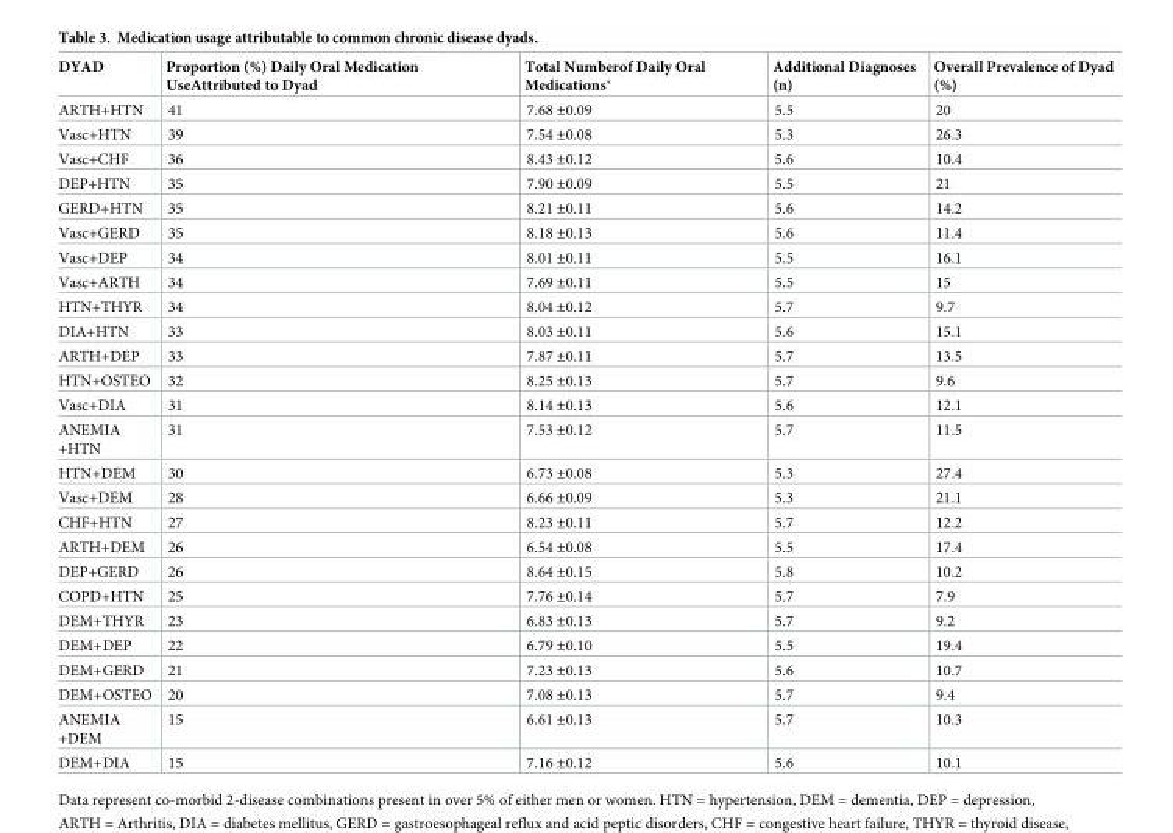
<table><thead><tr><td>DYAD</td><td>Proportion (%) Daily Oral Medication UseAttributed to Dyad</td><td>Total Numberof Daily Oral Medications*</td><td>Additional Diagnoses (n)</td><td>Overall Prevalence of Dyad (%)</td></tr></thead><tbody><tr><td>ARTH+HTN</td><td>41</td><td>7.68 ±0.09</td><td>5.5</td><td>20</td></tr><tr><td>Vasc+HTN</td><td>39</td><td>7.54 ±0.08</td><td>5.3</td><td>26.3</td></tr><tr><td>Vasc+CHF</td><td>36</td><td>8.43 ±0.12</td><td>5.6</td><td>10.4</td></tr><tr><td>DEP+HTN</td><td>35</td><td>7.90 ±0.09</td><td>5.5</td><td>21</td></tr><tr><td>GERD+HTN</td><td>35</td><td>8.21 ±0.11</td><td>5.6</td><td>14.2</td></tr><tr><td>Vasc+GERD</td><td>35</td><td>8.18 ±0.13</td><td>5.6</td><td>11.4</td></tr><tr><td>Vasc+DEP</td><td>34</td><td>8.01 ±0.11</td><td>5.5</td><td>16.1</td></tr><tr><td>Vasc+ARTH</td><td>34</td><td>7.69 ±0.11</td><td>5.5</td><td>15</td></tr><tr><td>HTN+THYR</td><td>34</td><td>8.04 ±0.12</td><td>5.7</td><td>9.7</td></tr><tr><td>DIA+HTN</td><td>33</td><td>8.03 ±0.11</td><td>5.6</td><td>15.1</td></tr><tr><td>ARTH+DEP</td><td>33</td><td>7.87 ±0.11</td><td>5.7</td><td>13.5</td></tr><tr><td>HTN+OSTEO</td><td>32</td><td>8.25 ±0.13</td><td>5.7</td><td>9.6</td></tr><tr><td>Vasc+DIA</td><td>31</td><td>8.14 ±0.13</td><td>5.6</td><td>12.1</td></tr><tr><td>ANEMIA +HTN</td><td>31</td><td>7.53 ±0.12</td><td>5.7</td><td>11.5</td></tr><tr><td>HTN+DEM</td><td>30</td><td>6.73 ±0.08</td><td>5.3</td><td>27.4</td></tr><tr><td>Vasc+DEM</td><td>28</td><td>6.66 ±0.09</td><td>5.3</td><td>21.1</td></tr><tr><td>CHF+HTN</td><td>27</td><td>8.23 ±0.11</td><td>5.7</td><td>12.2</td></tr><tr><td>ARTH+DEM</td><td>26</td><td>6.54 ±0.08</td><td>5.5</td><td>17.4</td></tr><tr><td>DEP+GERD</td><td>26</td><td>8.64 ±0.15</td><td>5.8</td><td>10.2</td></tr><tr><td>COPD+HTN</td><td>25</td><td>7.76 ±0.14</td><td>5.7</td><td>7.9</td></tr><tr><td>DEM+THYR</td><td>23</td><td>6.83 ±0.13</td><td>5.7</td><td>9.2</td></tr><tr><td>DEM+DEP</td><td>22</td><td>6.79 ±0.10</td><td>5.5</td><td>19.4</td></tr><tr><td>DEM+GERD</td><td>21</td><td>7.23 ±0.13</td><td>5.6</td><td>10.7</td></tr><tr><td>DEM+OSTEO</td><td>20</td><td>7.08 ±0.13</td><td>5.7</td><td>9.4</td></tr><tr><td>ANEMIA +DEM</td><td>15</td><td>6.61 ±0.13</td><td>5.7</td><td>10.3</td></tr><tr><td>DEM+DIA</td><td>15</td><td>7.16 ±0.12</td><td>5.6</td><td>10.1</td></tr></tbody></table>